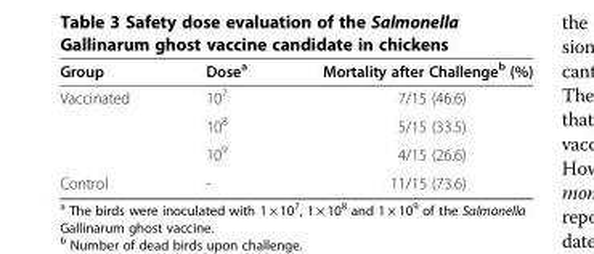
<table><thead><tr><td>Group</td><td>Dose<sup>a</sup></td><td>Mortality after Challenge<sup>b</sup> (%)</td></tr></thead><tbody><tr><td rowspan="3">Vaccinated</td><td>10<sup>7</sup></td><td>7/15 (46.6)</td></tr><tr><td>10<sup>8</sup></td><td>5/15 (33.5)</td></tr><tr><td>10<sup>9</sup></td><td>4/15 (26.6)</td></tr><tr><td>Control</td><td>-</td><td>11/15 (73.6)</td></tr></tbody></table>